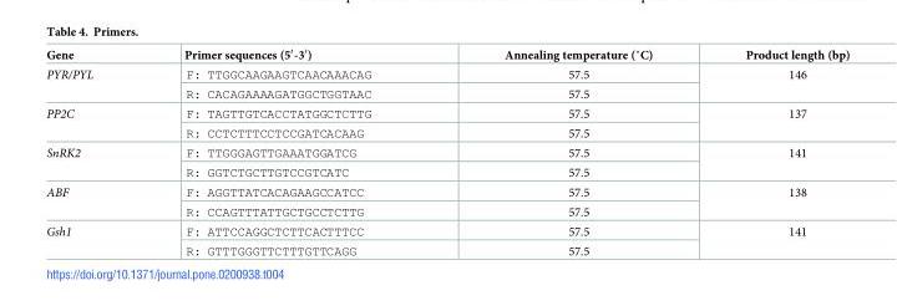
<table><thead><tr><td>Gene</td><td>Primer sequences (5ʹ-3ʹ)</td><td>Annealing temperature (˚C)</td><td>Product length (bp)</td></tr></thead><tbody><tr><td rowspan="2">PYR/PYL</td><td>F: TTGGCAAGAAGTCAACAAACAG</td><td>57.5</td><td rowspan="2">146</td></tr><tr><td>R: CACAGAAAAGATGGCTGGTAAC</td><td>57.5</td></tr><tr><td rowspan="2">PP2C</td><td>F: TAGTTGTCACCTATGGCTCTTG</td><td>57.5</td><td rowspan="2">137</td></tr><tr><td>R: CCTCTTTCCTCCGATCACAAG</td><td>57.5</td></tr><tr><td rowspan="2">SnRK2</td><td>F: TTGGGAGTTGAAATGGATCG</td><td>57.5</td><td rowspan="2">141</td></tr><tr><td>R: GGTCTGCTTGTCCGTCATC</td><td>57.5</td></tr><tr><td rowspan="2">ABF</td><td>F: AGGTTATCACAGAAGCCATCC</td><td>57.5</td><td rowspan="2">138</td></tr><tr><td>R: CCAGTTTATTGCTGCCTCTTG</td><td>57.5</td></tr><tr><td rowspan="2">Gsh1</td><td>F: ATTCCAGGCTCTTCACTTTCC</td><td>57.5</td><td rowspan="2">141</td></tr><tr><td>R: GTTTGGGTTCTTTGTTCAGG</td><td>57.5</td></tr></tbody></table>